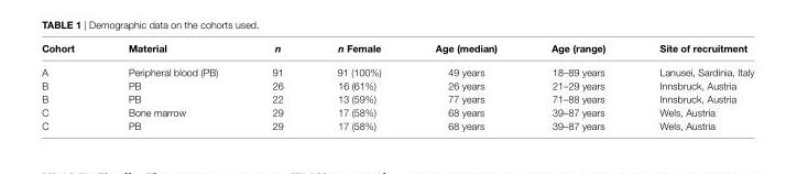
<table><thead><tr><td>cohort</td><td>Material</td><td>n</td><td>n Female</td><td>age (median)</td><td>age (range)</td><td>site of recruitment</td></tr></thead><tbody><tr><td>A</td><td>Peripheral blood (PB)</td><td>91</td><td>91 (100%)</td><td>49 years</td><td>18–89 years</td><td>Lanusei, Sardinia, Italy</td></tr><tr><td>B</td><td>PB</td><td>26</td><td>16 (61%)</td><td>26 years</td><td>21–29 years</td><td>Innsbruck, Austria</td></tr><tr><td>B</td><td>PB</td><td>22</td><td>13 (59%)</td><td>77 years</td><td>71–88 years</td><td>Innsbruck, Austria</td></tr><tr><td>C</td><td>Bone marrow</td><td>29</td><td>17 (58%)</td><td>68 years</td><td>39–87 years</td><td>Wels, Austria</td></tr><tr><td>C</td><td>PB</td><td>29</td><td>17 (58%)</td><td>68 years</td><td>39–87 years</td><td>Wels, Austria</td></tr></tbody></table>